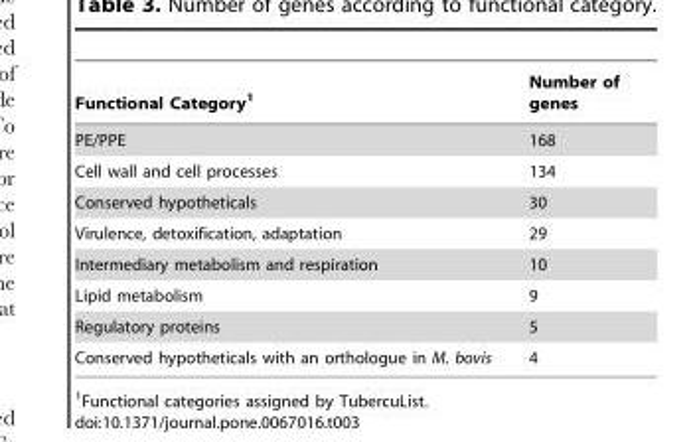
<table><thead><tr><td>Functional Category<sup>1</sup></td><td>Number of genes</td></tr></thead><tbody><tr><td>PE/PPE</td><td>168</td></tr><tr><td>Cell wall and cell processes</td><td>134</td></tr><tr><td>Conserved hypotheticals</td><td>30</td></tr><tr><td>Virulence, detoxification, adaptation</td><td>29</td></tr><tr><td>Intermediary metabolism and respiration</td><td>10</td></tr><tr><td>Lipid metabolism</td><td>9</td></tr><tr><td>Regulatory proteins</td><td>5</td></tr><tr><td>Conserved hypotheticals with an orthologue in M. bovis</td><td>4</td></tr></tbody></table>